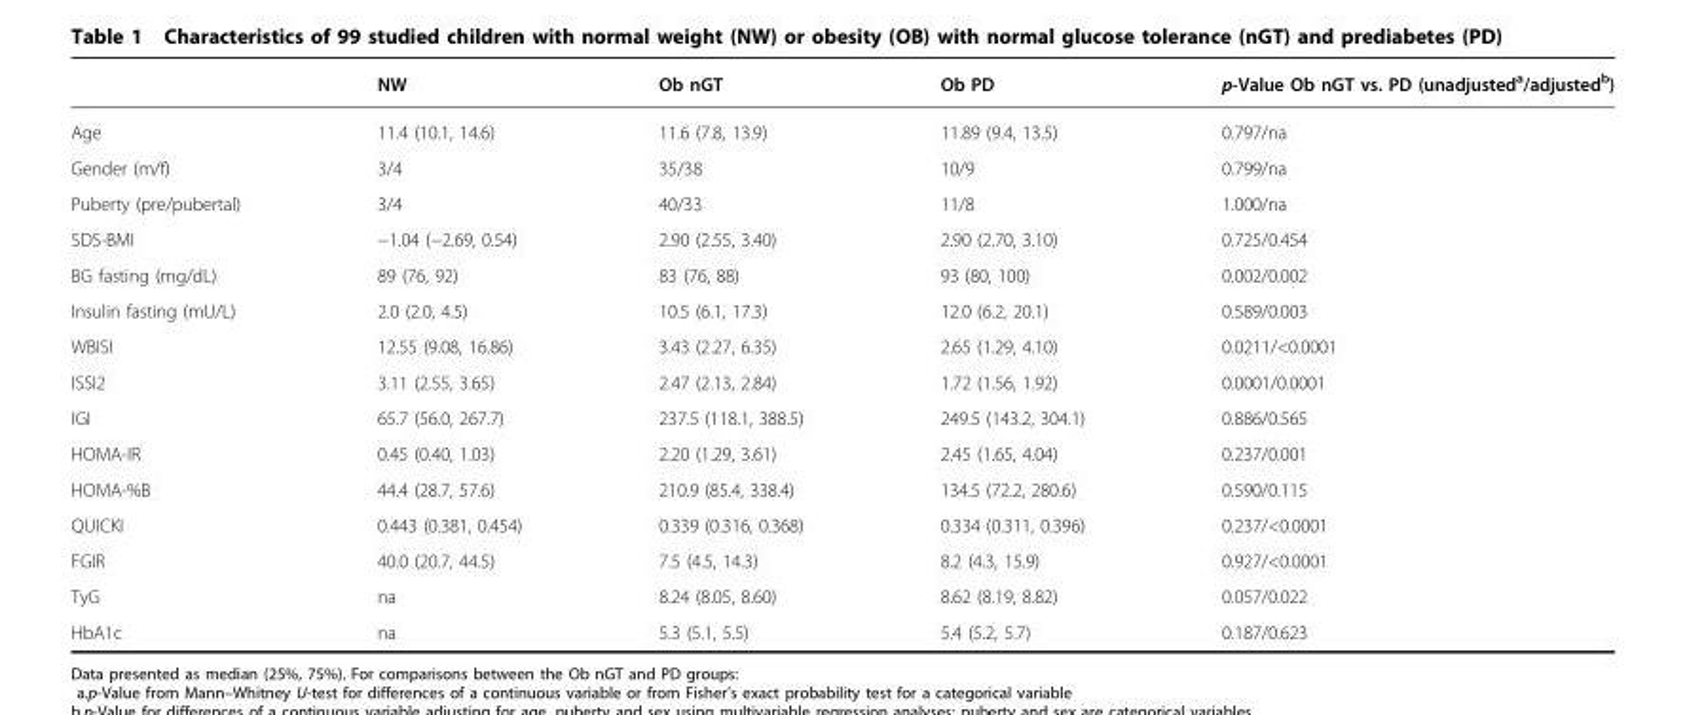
<table><thead><tr><td></td><td>NW</td><td>Ob nGT</td><td>Ob PD</td><td>p-Value Ob nGT vs. PD (unadjusted<sup>a</sup>/adjusted<sup>b</sup>)</td></tr></thead><tbody><tr><td>Age</td><td>11.4 (10.1, 14.6)</td><td>11.6 (7.8, 13.9)</td><td>11.89 (9.4, 13.5)</td><td>0.797/na</td></tr><tr><td>Gender (m/f)</td><td>3/4</td><td>35/38</td><td>10/9</td><td>0.799/na</td></tr><tr><td>Puberty (pre/pubertal)</td><td>3/4</td><td>40/33</td><td>11/8</td><td>1.000/na</td></tr><tr><td>SDS-BMI</td><td>−1.04 (−2.69, 0.54)</td><td>2.90 (2.55, 3.40)</td><td>2.90 (2.70, 3.10)</td><td>0.725/0.454</td></tr><tr><td>BG fasting (mg/dL)</td><td>89 (76, 92)</td><td>83 (76, 88)</td><td>93 (80, 100)</td><td>0.002/0.002</td></tr><tr><td>Insulin fasting (mU/L)</td><td>2.0 (2.0, 4.5)</td><td>10.5 (6.1, 17.3)</td><td>12.0 (6.2, 20.1)</td><td>0.589/0.003</td></tr><tr><td>WBISI</td><td>12.55 (9.08, 16.86)</td><td>3.43 (2.27, 6.35)</td><td>2.65 (1.29, 4.10)</td><td>0.0211/&lt;0.0001</td></tr><tr><td>ISSI2</td><td>3.11 (2.55, 3.65)</td><td>2.47 (2.13, 2.84)</td><td>1.72 (1.56, 1.92)</td><td>0.0001/0.0001</td></tr><tr><td>IGI</td><td>65.7 (56.0, 267.7)</td><td>237.5 (118.1, 388.5)</td><td>249.5 (143.2, 304.1)</td><td>0.886/0.565</td></tr><tr><td>HOMA-IR</td><td>0.45 (0.40, 1.03)</td><td>2.20 (1.29, 3.61)</td><td>2.45 (1.65, 4.04)</td><td>0.237/0.001</td></tr><tr><td>HOMA-%B</td><td>44.4 (28.7, 57.6)</td><td>210.9 (85.4, 338.4)</td><td>134.5 (72.2, 280.6)</td><td>0.590/0.115</td></tr><tr><td>QUICKI</td><td>0.443 (0.381, 0.454)</td><td>0.339 (0.316, 0.368)</td><td>0.334 (0.311, 0.396)</td><td>0.237/&lt;0.0001</td></tr><tr><td>FGIR</td><td>40.0 (20.7, 44.5)</td><td>7.5 (4.5, 14.3)</td><td>8.2 (4.3, 15.9)</td><td>0.927/&lt;0.0001</td></tr><tr><td>TyG</td><td>na</td><td>8.24 (8.05, 8.60)</td><td>8.62 (8.19, 8.82)</td><td>0.057/0.022</td></tr><tr><td>HbA1c</td><td>na</td><td>5.3 (5.1, 5.5)</td><td>5.4 (5.2, 5.7)</td><td>0.187/0.623</td></tr></tbody></table>